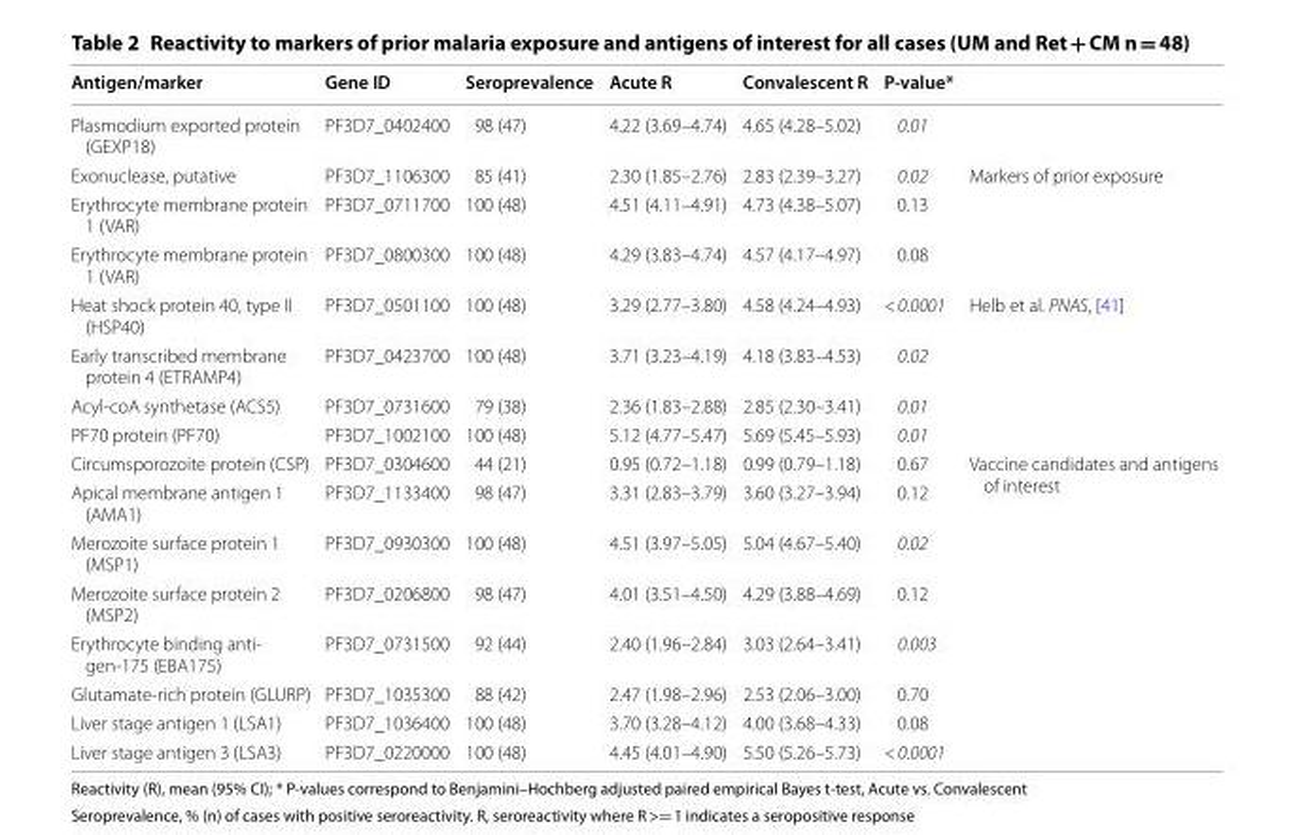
<table><thead><tr><td>Antigen/marker</td><td>Gene ID</td><td>Seroprevalence</td><td>Acute R</td><td>Convalescent R</td><td>P-value*</td><td></td></tr></thead><tbody><tr><td>Plasmodium exported protein (GEXP18)</td><td>PF3D7_0402400</td><td>98 (47)</td><td>4.22 (3.69–4.74)</td><td>4.65 (4.28–5.02)</td><td>0.01</td><td></td></tr><tr><td>Exonuclease, putative</td><td>PF3D7_1106300</td><td>85 (41)</td><td>2.30 (1.85–2.76)</td><td>2.83 (2.39–3.27)</td><td>0.02</td><td rowspan="2">Markers of prior exposure</td></tr><tr><td>Erythrocyte membrane protein 1 (VAR)</td><td>PF3D7_0711700</td><td>100 (48)</td><td>4.51 (4.11–4.91)</td><td>4.73 (4.38–5.07)</td><td>0.13</td></tr><tr><td>Erythrocyte membrane protein 1 (VAR)</td><td>PF3D7_0800300</td><td>100 (48)</td><td>4.29 (3.83–4.74)</td><td>4.57 (4.17–4.97)</td><td>0.08</td><td></td></tr><tr><td>Heat shock protein 40, type II (HSP40)</td><td>PF3D7_0501100</td><td>100 (48)</td><td>3.29 (2.77–3.80)</td><td>4.58 (4.24–4.93)</td><td>&lt; 0.0001</td><td rowspan="2">Helb et al. PNAS, [41]</td></tr><tr><td>Early transcribed membrane protein 4 (ETRAMP4)</td><td>PF3D7_0423700</td><td>100 (48)</td><td>3.71 (3.23–4.19)</td><td>4.18 (3.83–4.53)</td><td>0.02</td></tr><tr><td>Acyl-coA synthetase (ACS5)</td><td>PF3D7_0731600</td><td>79 (38)</td><td>2.36 (1.83–2.88)</td><td>2.85 (2.30–3.41)</td><td>0.01</td><td></td></tr><tr><td>PF70 protein (PF70)</td><td>PF3D7_1002100</td><td>100 (48)</td><td>5.12 (4.77–5.47)</td><td>5.69 (5.45–5.93)</td><td>0.01</td><td></td></tr><tr><td>Circumsporozoite protein (CSP)</td><td>PF3D7_0304600</td><td>44 (21)</td><td>0.95 (0.72–1.18)</td><td>0.99 (0.79–1.18)</td><td>0.67</td><td rowspan="4">Vaccine candidates and antigens of interest</td></tr><tr><td>Apical membrane antigen 1 (AMA1)</td><td>PF3D7_1133400</td><td>98 (47)</td><td>3.31 (2.83–3.79)</td><td>3.60 (3.27–3.94)</td><td>0.12</td></tr><tr><td>Merozoite surface protein 1 (MSP1)</td><td>PF3D7_0930300</td><td>100 (48)</td><td>4.51 (3.97–5.05)</td><td>5.04 (4.67–5.40)</td><td>0.02</td></tr><tr><td>Merozoite surface protein 2 (MSP2)</td><td>PF3D7_0206800</td><td>98 (47)</td><td>4.01 (3.51–4.50)</td><td>4.29 (3.88–4.69)</td><td>0.12</td></tr><tr><td>Erythrocyte binding anti- gen-175 (EBA175)</td><td>PF3D7_0731500</td><td>92 (44)</td><td>2.40 (1.96–2.84)</td><td>3.03 (2.64–3.41)</td><td>0.003</td><td></td></tr><tr><td>Glutamate-rich protein (GLURP)</td><td>PF3D7_1035300</td><td>88 (42)</td><td>2.47 (1.98–2.96)</td><td>2.53 (2.06–3.00)</td><td>0.70</td><td></td></tr><tr><td>Liver stage antigen 1 (LSA1)</td><td>PF3D7_1036400</td><td>100 (48)</td><td>3.70 (3.28–4.12)</td><td>4.00 (3.68–4.33)</td><td>0.08</td><td></td></tr><tr><td>Liver stage antigen 3 (LSA3)</td><td>PF3D7_0220000</td><td>100 (48)</td><td>4.45 (4.01–4.90)</td><td>5.50 (5.26–5.73)</td><td>&lt; 0.0001</td><td></td></tr></tbody></table>